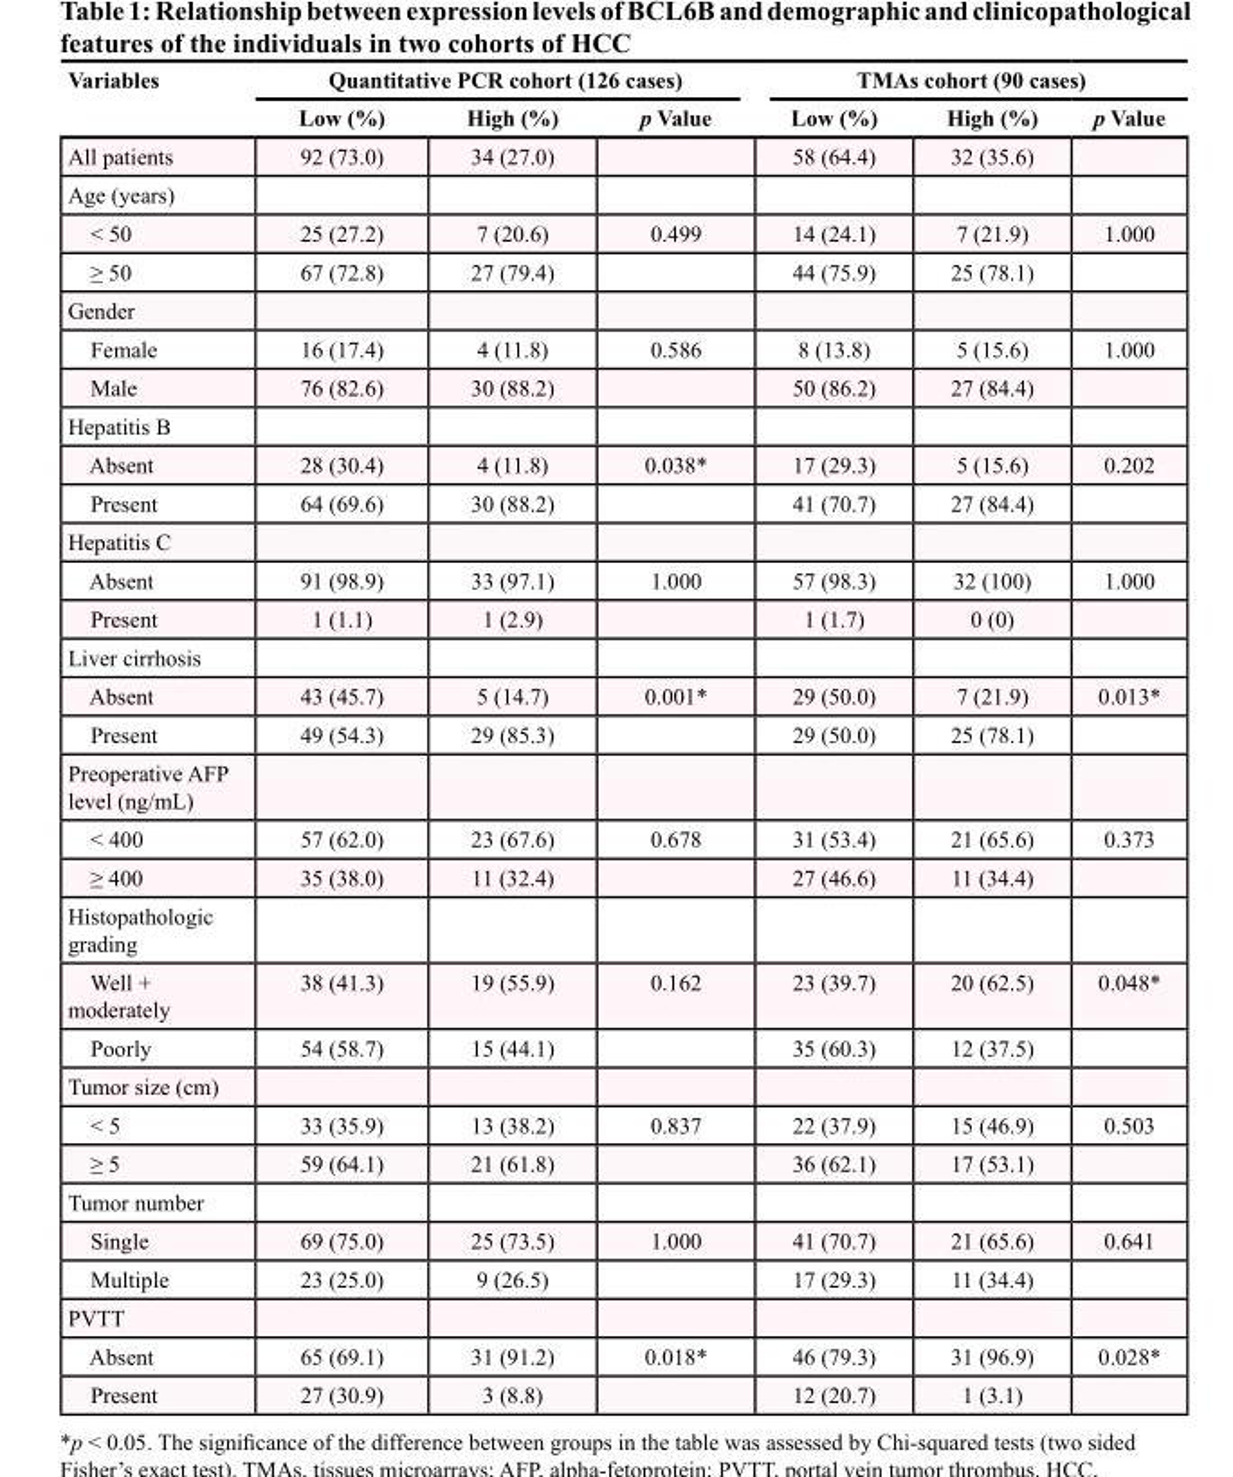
<table><thead><tr><td rowspan="2">Variables</td><td colspan="3">Quantitative PCR cohort (126 cases)</td><td colspan="3">TMAs cohort (90 cases)</td></tr><tr><td>Low (%)</td><td>High (%)</td><td>p Value</td><td>Low (%)</td><td>High (%)</td><td>p Value</td></tr></thead><tbody><tr><td>All patients</td><td>92 (73.0)</td><td>34 (27.0)</td><td></td><td>58 (64.4)</td><td>32 (35.6)</td><td></td></tr><tr><td colspan="7">Age (years)</td></tr><tr><td>&lt; 50</td><td>25 (27.2)</td><td>7 (20.6)</td><td>0.499</td><td>14 (24.1)</td><td>7 (21.9)</td><td>1.000</td></tr><tr><td>≥ 50</td><td>67 (72.8)</td><td>27 (79.4)</td><td></td><td>44 (75.9)</td><td>25 (78.1)</td><td></td></tr><tr><td colspan="7">Gender</td></tr><tr><td>Female</td><td>16 (17.4)</td><td>4 (11.8)</td><td>0.586</td><td>8 (13.8)</td><td>5 (15.6)</td><td>1.000</td></tr><tr><td>Male</td><td>76 (82.6)</td><td>30 (88.2)</td><td></td><td>50 (86.2)</td><td>27 (84.4)</td><td></td></tr><tr><td colspan="7">Hepatitis B</td></tr><tr><td>Absent</td><td>28 (30.4)</td><td>4 (11.8)</td><td>0.038*</td><td>17 (29.3)</td><td>5 (15.6)</td><td>0.202</td></tr><tr><td>Present</td><td>64 (69.6)</td><td>30 (88.2)</td><td></td><td>41 (70.7)</td><td>27 (84.4)</td><td></td></tr><tr><td colspan="7">Hepatitis C</td></tr><tr><td>Absent</td><td>91 (98.9)</td><td>33 (97.1)</td><td>1.000</td><td>57 (98.3)</td><td>32 (100)</td><td>1.000</td></tr><tr><td>Present</td><td>1 (1.1)</td><td>1 (2.9)</td><td></td><td>1 (1.7)</td><td>0 (0)</td><td></td></tr><tr><td colspan="7">Liver cirrhosis</td></tr><tr><td>Absent</td><td>43 (45.7)</td><td>5 (14.7)</td><td>0.001*</td><td>29 (50.0)</td><td>7 (21.9)</td><td>0.013*</td></tr><tr><td>Present</td><td>49 (54.3)</td><td>29 (85.3)</td><td></td><td>29 (50.0)</td><td>25 (78.1)</td><td></td></tr><tr><td colspan="7">Preoperative AFP level (ng/mL)</td></tr><tr><td>&lt; 400</td><td>57 (62.0)</td><td>23 (67.6)</td><td>0.678</td><td>31 (53.4)</td><td>21 (65.6)</td><td>0.373</td></tr><tr><td>≥ 400</td><td>35 (38.0)</td><td>11 (32.4)</td><td></td><td>27 (46.6)</td><td>11 (34.4)</td><td></td></tr><tr><td colspan="7">Histopathologic grading</td></tr><tr><td>Well + moderately</td><td>38 (41.3)</td><td>19 (55.9)</td><td>0.162</td><td>23 (39.7)</td><td>20 (62.5)</td><td>0.048*</td></tr><tr><td>Poorly</td><td>54 (58.7)</td><td>15 (44.1)</td><td></td><td>35 (60.3)</td><td>12 (37.5)</td><td></td></tr><tr><td colspan="7">Tumor size (cm)</td></tr><tr><td>&lt; 5</td><td>33 (35.9)</td><td>13 (38.2)</td><td>0.837</td><td>22 (37.9)</td><td>15 (46.9)</td><td>0.503</td></tr><tr><td>≥ 5</td><td>59 (64.1)</td><td>21 (61.8)</td><td></td><td>36 (62.1)</td><td>17 (53.1)</td><td></td></tr><tr><td colspan="7">Tumor number</td></tr><tr><td>Single</td><td>69 (75.0)</td><td>25 (73.5)</td><td>1.000</td><td>41 (70.7)</td><td>21 (65.6)</td><td>0.641</td></tr><tr><td>Multiple</td><td>23 (25.0)</td><td>9 (26.5)</td><td></td><td>17 (29.3)</td><td>11 (34.4)</td><td></td></tr><tr><td colspan="7">PVTT</td></tr><tr><td>Absent</td><td>65 (69.1)</td><td>31 (91.2)</td><td>0.018*</td><td>46 (79.3)</td><td>31 (96.9)</td><td>0.028*</td></tr><tr><td>Present</td><td>27 (30.9)</td><td>3 (8.8)</td><td></td><td>12 (20.7)</td><td>1 (3.1)</td><td></td></tr></tbody></table>